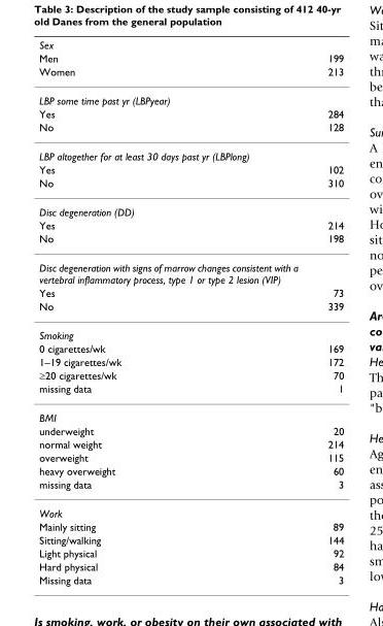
<table><thead><tr><td rowspan="3">Sex Men Women</td><td rowspan="3">199 213</td></tr><tr></tr><tr></tr></thead><tbody><tr><td colspan="2">LBP some time past yr (LBPyear)</td></tr><tr><td>Yes</td><td>284</td></tr><tr><td>No</td><td>128</td></tr><tr><td colspan="2">LBP altogether for at least 30 days past yr (LBPlong)</td></tr><tr><td>Yes</td><td>102</td></tr><tr><td>No</td><td>310</td></tr><tr><td colspan="2">Disc degeneration (DD)</td></tr><tr><td>Yes</td><td>214</td></tr><tr><td>No</td><td>198</td></tr><tr><td colspan="2">Disc degeneration with signs of marrow changes consistent with a vertebral inflammatory process, type 1 or type 2 lesion (VIP)</td></tr><tr><td>Yes</td><td>73</td></tr><tr><td>No</td><td>339</td></tr><tr><td colspan="2">Smoking</td></tr><tr><td>0 cigarettes/wk</td><td>169</td></tr><tr><td>1–19 cigarettes/wk</td><td>172</td></tr><tr><td>≥20 cigarettes/wk</td><td>70</td></tr><tr><td>missing data</td><td>1</td></tr><tr><td colspan="2">BMI</td></tr><tr><td>underweight</td><td>20</td></tr><tr><td>normal weight</td><td>214</td></tr><tr><td>overweight</td><td>115</td></tr><tr><td>heavy overweight</td><td>60</td></tr><tr><td>missing data</td><td>3</td></tr><tr><td colspan="2">Work</td></tr><tr><td>Mainly sitting</td><td>89</td></tr><tr><td>Sitting/walking</td><td>144</td></tr><tr><td>Light physical</td><td>92</td></tr><tr><td>Hard physical</td><td>84</td></tr><tr><td>Missing data</td><td>3</td></tr></tbody></table>